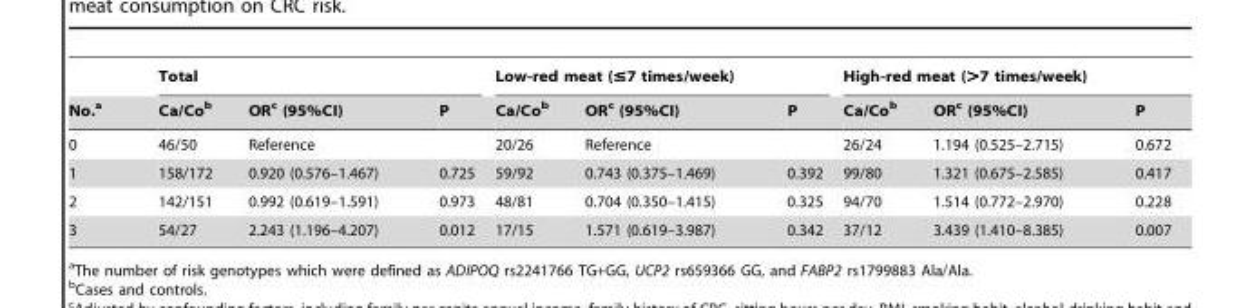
<table><thead><tr><td rowspan="2">No.<sup>a</sup></td><td colspan="3">Total</td><td colspan="3">Low-red meat (≤7 times/week)</td><td colspan="3">High-red meat (&gt;7 times/week)</td></tr><tr><td>Ca/Co<sup>b</sup></td><td>OR<sup>c</sup> (95%CI)</td><td>P</td><td>Ca/Co<sup>b</sup></td><td>OR<sup>c</sup> (95%CI)</td><td>P</td><td>Ca/Co<sup>b</sup></td><td>OR<sup>c</sup> (95%CI)</td><td>P</td></tr></thead><tbody><tr><td>0</td><td>46/50</td><td>Reference</td><td></td><td>20/26</td><td>Reference</td><td></td><td>26/24</td><td>1.194 (0.525–2.715)</td><td>0.672</td></tr><tr><td>1</td><td>158/172</td><td>0.920 (0.576–1.467)</td><td>0.725</td><td>59/92</td><td>0.743 (0.375–1.469)</td><td>0.392</td><td>99/80</td><td>1.321 (0.675–2.585)</td><td>0.417</td></tr><tr><td>2</td><td>142/151</td><td>0.992 (0.619–1.591)</td><td>0.973</td><td>48/81</td><td>0.704 (0.350–1.415)</td><td>0.325</td><td>94/70</td><td>1.514 (0.772–2.970)</td><td>0.228</td></tr><tr><td>3</td><td>54/27</td><td>2.243 (1.196–4.207)</td><td>0.012</td><td>17/15</td><td>1.571 (0.619–3.987)</td><td>0.342</td><td>37/12</td><td>3.439 (1.410–8.385)</td><td>0.007</td></tr></tbody></table>